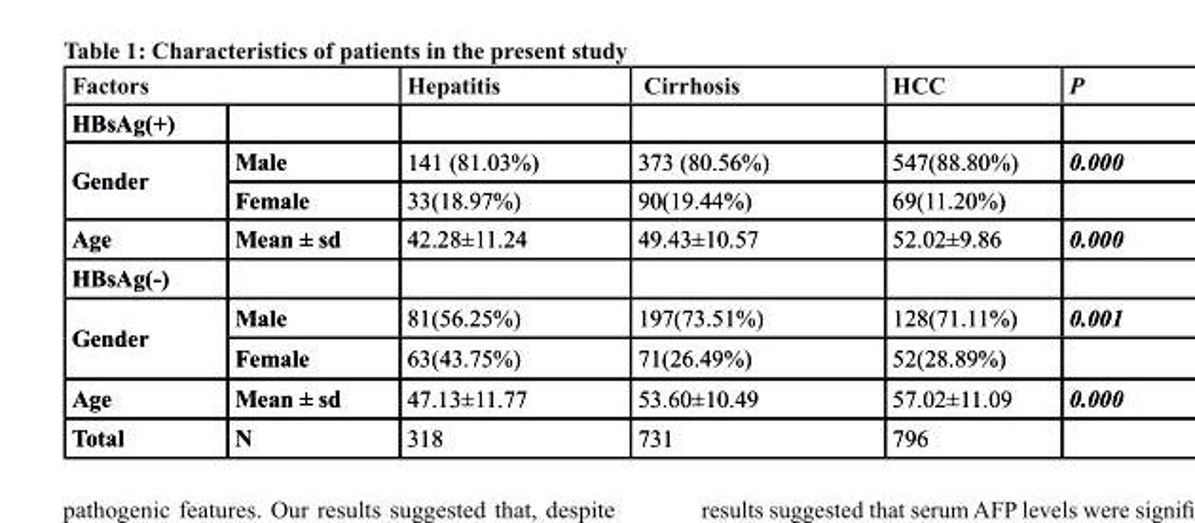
<table><thead><tr><td colspan="2">Factors</td><td rowspan="2">Hepatitis</td><td rowspan="2">cirrhosis</td><td rowspan="2">Hcc</td><td rowspan="2">P</td></tr><tr><td>HbsAg(+)</td><td></td></tr></thead><tbody><tr><td rowspan="2">Gender</td><td>Male</td><td>141 (81.03%)</td><td>373 (80.56%)</td><td>547(88.80%)</td><td>0.000</td></tr><tr><td>Female</td><td>33(18.97%)</td><td>90(19.44%)</td><td>69(11.20%)</td><td></td></tr><tr><td>Age</td><td>Mean ± sd</td><td>42.28±11.24</td><td>49.43±10.57</td><td>52.02±9.86</td><td>0.000</td></tr><tr><td colspan="6">HbsAg(-)</td></tr><tr><td rowspan="2">Gender</td><td>Male</td><td>81(56.25%)</td><td>197(73.51%)</td><td>128(71.11%)</td><td>0.001</td></tr><tr><td>Female</td><td>63(43.75%)</td><td>71(26.49%)</td><td>52(28.89%)</td><td></td></tr><tr><td>Age</td><td>Mean ± sd</td><td>47.13±11.77</td><td>53.60±10.49</td><td>57.02±11.09</td><td>0.000</td></tr><tr><td>total</td><td>n</td><td>318</td><td>731</td><td>796</td><td></td></tr></tbody></table>